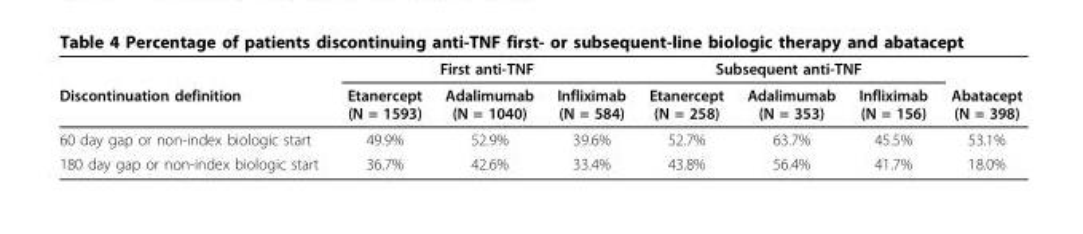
<table><thead><tr><td rowspan="2">Discontinuation definition</td><td colspan="3">First anti-TNF</td><td colspan="3">Subsequent anti-TNF</td><td rowspan="2">Abatacept (N = 398)</td></tr><tr><td>Etanercept (N = 1593)</td><td>Adalimumab (N = 1040)</td><td>Infliximab (N = 584)</td><td>Etanercept (N = 258)</td><td>Adalimumab (N = 353)</td><td>Infliximab (N = 156)</td></tr></thead><tbody><tr><td>60 day gap or non-index biologic start</td><td>49.9%</td><td>52.9%</td><td>39.6%</td><td>52.7%</td><td>63.7%</td><td>45.5%</td><td>53.1%</td></tr><tr><td>180 day gap or non-index biologic start</td><td>36.7%</td><td>42.6%</td><td>33.4%</td><td>43.8%</td><td>56.4%</td><td>41.7%</td><td>18.0%</td></tr></tbody></table>